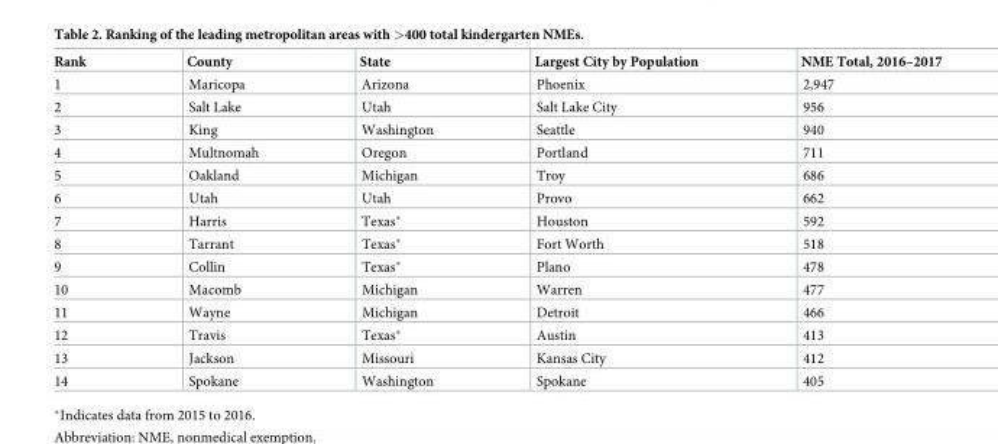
<table><thead><tr><td>Rank</td><td>County</td><td>State</td><td>Largest City by Population</td><td>NME Total, 2016–2017</td></tr></thead><tbody><tr><td>1</td><td>Maricopa</td><td>Arizona</td><td>Phoenix</td><td>2,947</td></tr><tr><td>2</td><td>Salt Lake</td><td>Utah</td><td>Salt Lake City</td><td>956</td></tr><tr><td>3</td><td>King</td><td>Washington</td><td>Seattle</td><td>940</td></tr><tr><td>4</td><td>Multnomah</td><td>Oregon</td><td>Portland</td><td>711</td></tr><tr><td>5</td><td>Oakland</td><td>Michigan</td><td>Troy</td><td>686</td></tr><tr><td>6</td><td>Utah</td><td>Utah</td><td>Provo</td><td>662</td></tr><tr><td>7</td><td>Harris</td><td>Texas*</td><td>Houston</td><td>592</td></tr><tr><td>8</td><td>Tarrant</td><td>Texas*</td><td>Fort Worth</td><td>518</td></tr><tr><td>9</td><td>Collin</td><td>Texas*</td><td>Plano</td><td>478</td></tr><tr><td>10</td><td>Macomb</td><td>Michigan</td><td>Warren</td><td>477</td></tr><tr><td>11</td><td>Wayne</td><td>Michigan</td><td>Detroit</td><td>466</td></tr><tr><td>12</td><td>Travis</td><td>Texas*</td><td>Austin</td><td>413</td></tr><tr><td>13</td><td>Jackson</td><td>Missouri</td><td>Kansas City</td><td>412</td></tr><tr><td>14</td><td>Spokane</td><td>Washington</td><td>Spokane</td><td>405</td></tr></tbody></table>